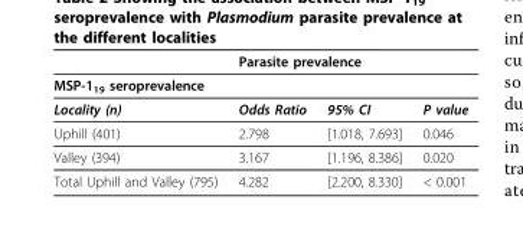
<table><thead><tr><td rowspan="2">MSP-1<sub>19</sub> seroprevalence</td><td colspan="3">Parasite prevalence</td></tr><tr><td></td><td></td><td></td></tr></thead><tbody><tr><td>Locality (n)</td><td>Odds Ratio</td><td>95% CI</td><td>P value</td></tr><tr><td>Uphill (401)</td><td>2.798</td><td>[1.018, 7.693]</td><td>0.046</td></tr><tr><td>Valley (394)</td><td>3.167</td><td>[1.196, 8.386]</td><td>0.020</td></tr><tr><td>Total Uphill and Valley (795)</td><td>4.282</td><td>[2.200, 8.330]</td><td>&lt; 0.001</td></tr></tbody></table>